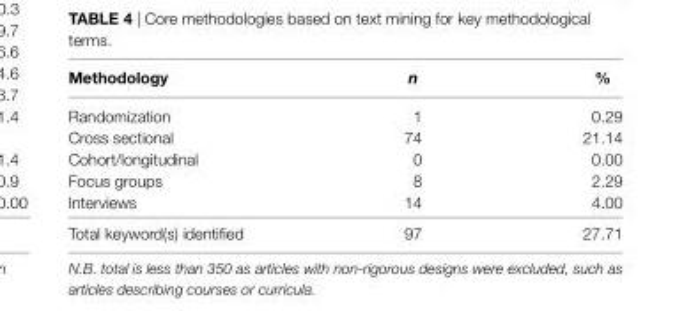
<table><thead><tr><td>Methodology</td><td>n</td><td>%</td></tr></thead><tbody><tr><td>Randomization</td><td>1</td><td>0.29</td></tr><tr><td>Cross sectional</td><td>74</td><td>21.14</td></tr><tr><td>Cohort/longitudinal</td><td>0</td><td>0.00</td></tr><tr><td>Focus groups</td><td>8</td><td>2.29</td></tr><tr><td>Interviews</td><td>14</td><td>4.00</td></tr><tr><td>Total keyword(s) identified</td><td>97</td><td>27.71</td></tr></tbody></table>